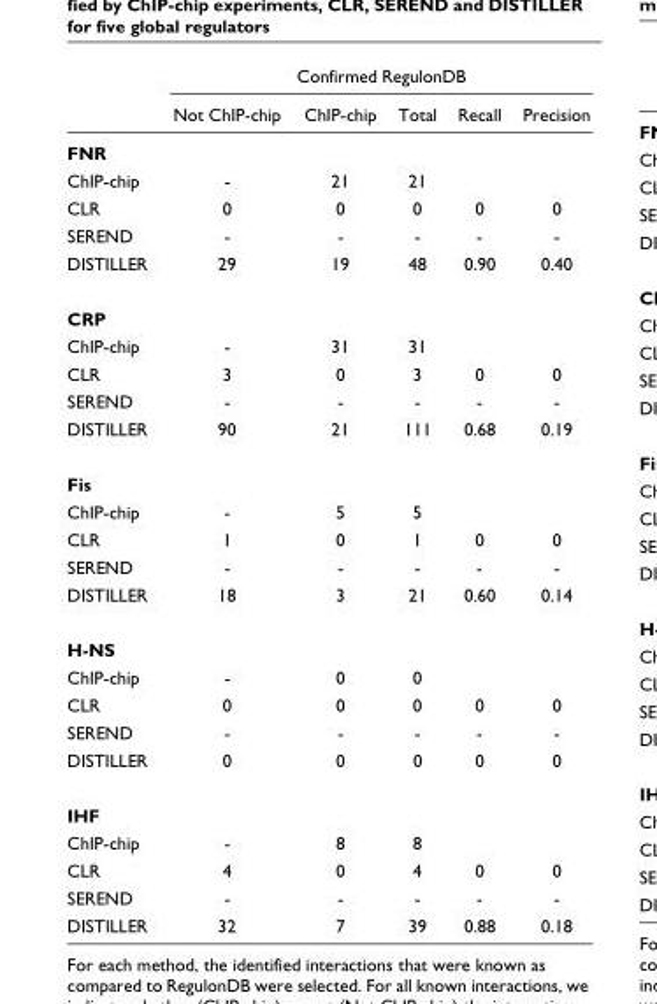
<table><thead><tr><td rowspan="2"></td><td colspan="5">Confirmed RegulonDB</td></tr><tr><td>Not ChIP-chip</td><td>ChIP-chip</td><td>Total</td><td>Recall</td><td>Precision</td></tr></thead><tbody><tr><td colspan="6">FNR</td></tr><tr><td>ChIP-chip</td><td>-</td><td>21</td><td>21</td><td></td><td></td></tr><tr><td>CLR</td><td>0</td><td>0</td><td>0</td><td>0</td><td>0</td></tr><tr><td>SEREND</td><td>-</td><td>-</td><td>-</td><td>-</td><td>-</td></tr><tr><td>DISTILLER</td><td>29</td><td>19</td><td>48</td><td>0.90</td><td>0.40</td></tr><tr><td colspan="6">CRP</td></tr><tr><td>ChIP-chip</td><td>-</td><td>31</td><td>31</td><td></td><td></td></tr><tr><td>CLR</td><td>3</td><td>0</td><td>3</td><td>0</td><td>0</td></tr><tr><td>SEREND</td><td>-</td><td>-</td><td>-</td><td>-</td><td>-</td></tr><tr><td>DISTILLER</td><td>90</td><td>21</td><td>111</td><td>0.68</td><td>0.19</td></tr><tr><td colspan="6">Fis</td></tr><tr><td>ChIP-chip</td><td>-</td><td>5</td><td>5</td><td></td><td></td></tr><tr><td>CLR</td><td>1</td><td>0</td><td>1</td><td>0</td><td>0</td></tr><tr><td>SEREND</td><td>-</td><td>-</td><td>-</td><td>-</td><td>-</td></tr><tr><td>DISTILLER</td><td>18</td><td>3</td><td>21</td><td>0.60</td><td>0.14</td></tr><tr><td colspan="6">H-NS</td></tr><tr><td>ChIP-chip</td><td>-</td><td>0</td><td>0</td><td></td><td></td></tr><tr><td>CLR</td><td>0</td><td>0</td><td>0</td><td>0</td><td>0</td></tr><tr><td>SEREND</td><td>-</td><td>-</td><td>-</td><td>-</td><td>-</td></tr><tr><td>DISTILLER</td><td>0</td><td>0</td><td>0</td><td>0</td><td>0</td></tr><tr><td colspan="6">IHF</td></tr><tr><td>ChIP-chip</td><td>-</td><td>8</td><td>8</td><td></td><td></td></tr><tr><td>CLR</td><td>4</td><td>0</td><td>4</td><td>0</td><td>0</td></tr><tr><td>SEREND</td><td>-</td><td>-</td><td>-</td><td>-</td><td>-</td></tr><tr><td>DISTILLER</td><td>32</td><td>7</td><td>39</td><td>0.88</td><td>0.18</td></tr></tbody></table>